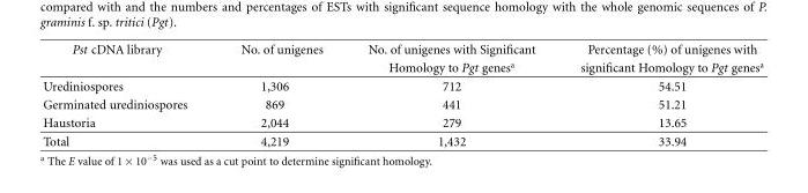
<table><thead><tr><td rowspan="2">Pst cDNA library</td><td rowspan="2">No. of unigenes</td><td rowspan="2">No. of unigenes with Significant Homology to Pgt genes<sup>a</sup></td><td rowspan="2">Percentage (%) of unigenes with significant Homology to Pgt genes<sup>a</sup></td></tr><tr></tr></thead><tbody><tr><td>Urediniospores</td><td>1,306</td><td>712</td><td>54.51</td></tr><tr><td>Germinated urediniospores</td><td>869</td><td>441</td><td>51.21</td></tr><tr><td>Haustoria</td><td>2,044</td><td>279</td><td>13.65</td></tr><tr><td>Total</td><td>4,219</td><td>1,432</td><td>33.94</td></tr></tbody></table>